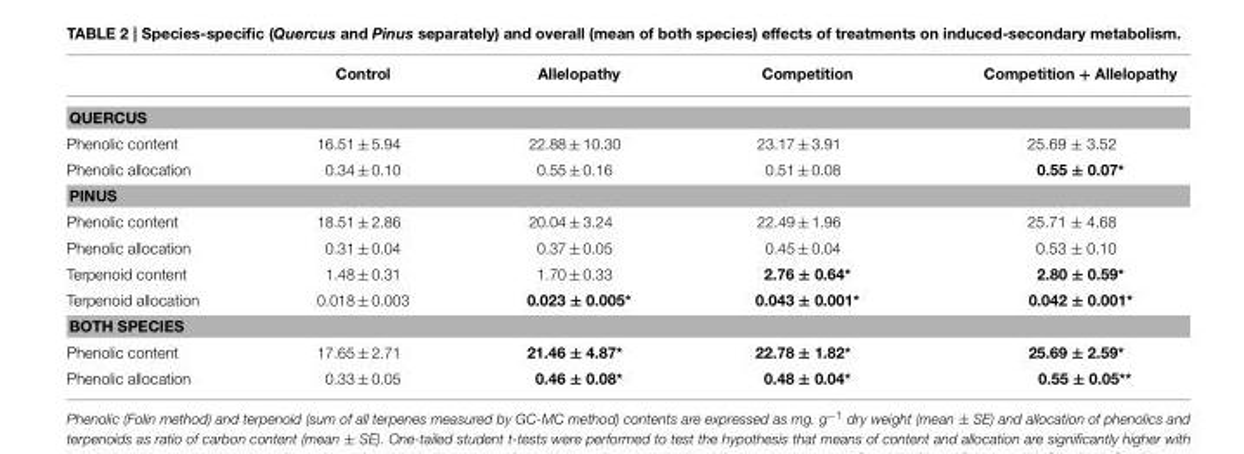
<table><thead><tr><td></td><td>Control</td><td>Allelopathy</td><td>Competition</td><td>Competition + Allelopathy</td></tr></thead><tbody><tr><td colspan="5">QUERCUS</td></tr><tr><td>Phenolic content</td><td>16.51 ± 5.94</td><td>22.88 ± 10.30</td><td>23.17 ± 3.91</td><td>25.69 ± 3.52</td></tr><tr><td>Phenolic allocation</td><td>0.34 ± 0.10</td><td>0.55 ± 0.16</td><td>0.51 ± 0.08</td><td>0.55 ± 0.07*</td></tr><tr><td colspan="5">PINUS</td></tr><tr><td>Phenolic content</td><td>18.51 ± 2.86</td><td>20.04 ± 3.24</td><td>22.49 ± 1.96</td><td>25.71 ± 4.68</td></tr><tr><td>Phenolic allocation</td><td>0.31 ± 0.04</td><td>0.37 ± 0.05</td><td>0.45 ± 0.04</td><td>0.53 ± 0.10</td></tr><tr><td>Terpenoid content</td><td>1.48 ± 0.31</td><td>1.70 ± 0.33</td><td>2.76 ± 0.64*</td><td>2.80 ± 0.59*</td></tr><tr><td>Terpenoid allocation</td><td>0.018 ± 0.003</td><td>0.023 ± 0.005*</td><td>0.043 ± 0.001*</td><td>0.042 ± 0.001*</td></tr><tr><td colspan="5">BOTH SPECIES</td></tr><tr><td>Phenolic content</td><td>17.65 ± 2.71</td><td>21.46 ± 4.87*</td><td>22.78 ± 1.82*</td><td>25.69 ± 2.59*</td></tr><tr><td>Phenolic allocation</td><td>0.33 ± 0.05</td><td>0.46 ± 0.08*</td><td>0.48 ± 0.04*</td><td>0.55 ± 0.05**</td></tr></tbody></table>